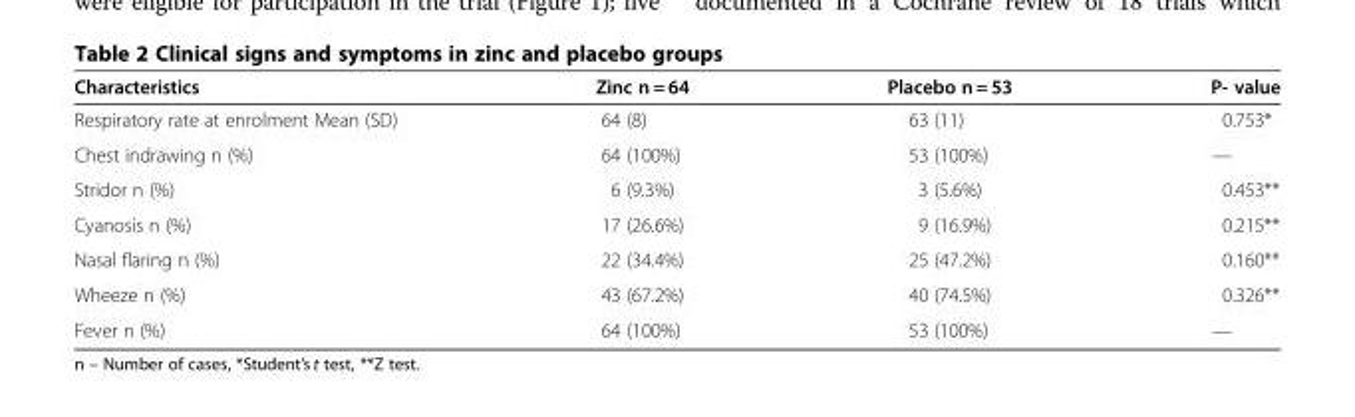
<table><thead><tr><td>Characteristics</td><td>Zinc n = 64</td><td>Placebo n = 53</td><td>P- value</td></tr></thead><tbody><tr><td>Respiratory rate at enrolment Mean (SD)</td><td>64 (8)</td><td>63 (11)</td><td>0.753*</td></tr><tr><td>Chest indrawing n (%)</td><td>64 (100%)</td><td>53 (100%)</td><td>—</td></tr><tr><td>Stridor n (%)</td><td>6 (9.3%)</td><td>3 (5.6%)</td><td>0.453**</td></tr><tr><td>Cyanosis n (%)</td><td>17 (26.6%)</td><td>9 (16.9%)</td><td>0.215**</td></tr><tr><td>Nasal flaring n (%)</td><td>22 (34.4%)</td><td>25 (47.2%)</td><td>0.160**</td></tr><tr><td>Wheeze n (%)</td><td>43 (67.2%)</td><td>40 (74.5%)</td><td>0.326**</td></tr><tr><td>Fever n (%)</td><td>64 (100%)</td><td>53 (100%)</td><td>—</td></tr></tbody></table>